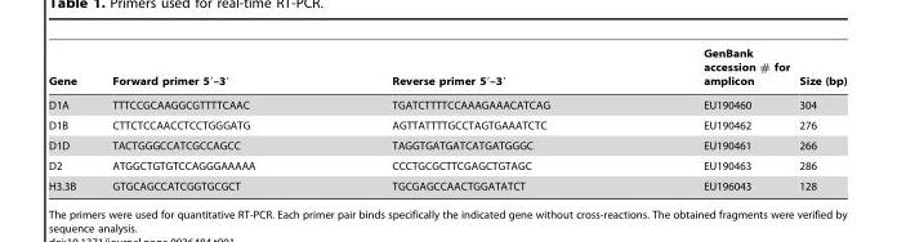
<table><thead><tr><td>Gene</td><td>Forward primer 5′–3′</td><td>Reverse primer 5′–3′</td><td>GenBank accession # for amplicon</td><td>Size (bp)</td></tr></thead><tbody><tr><td>D1A</td><td>TTTCCGCAAGGCGTTTTCAAC</td><td>TGATCTTTTCCAAAGAAACATCAG</td><td>EU190460</td><td>304</td></tr><tr><td>D1B</td><td>CTTCTCCAACCTCCTGGGATG</td><td>AGTTATTTTGCCTAGTGAAATCTC</td><td>EU190462</td><td>276</td></tr><tr><td>D1D</td><td>TACTGGGCCATCGCCAGCC</td><td>TAGGTGATGATCATGATGGGC</td><td>EU190461</td><td>266</td></tr><tr><td>D2</td><td>ATGGCTGTGTCCAGGGAAAAA</td><td>CCCTGCGCTTCGAGCTGTAGC</td><td>EU190463</td><td>286</td></tr><tr><td>H3.3B</td><td>GTGCAGCCATCGGTGCGCT</td><td>TGCGAGCCAACTGGATATCT</td><td>EU196043</td><td>128</td></tr></tbody></table>